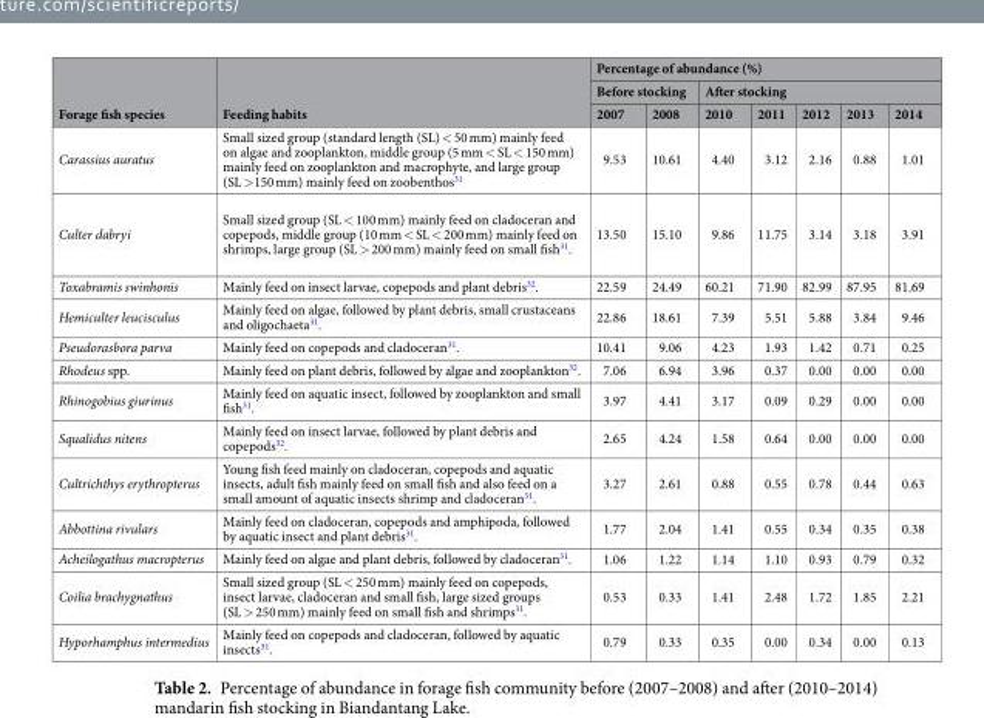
<table><thead><tr><td rowspan="3">Forage fish species</td><td rowspan="3">Feeding habits</td><td colspan="7">Percentage of abundance (%)</td></tr><tr><td colspan="2">Before stocking</td><td colspan="5">After stocking</td></tr><tr><td>2007</td><td>2008</td><td>2010</td><td>2011</td><td>2012</td><td>2013</td><td>2014</td></tr></thead><tbody><tr><td>Carassius auratus</td><td>Small sized group (standard length (SL) &lt; 50 mm) mainly feed on algae and zooplankton, middle group (5 mm &lt; SL &lt; 150 mm) mainly feed on zooplankton and macrophyte, and large group (SL &gt;150 mm) mainly feed on zoobenthos<sup>31</sup></td><td>9.53</td><td>10.61</td><td>4.40</td><td>3.12</td><td>2.16</td><td>0.88</td><td>1.01</td></tr><tr><td>Culter dabryi</td><td>Small sized group (SL &lt; 100 mm) mainly feed on cladoceran and copepods, middle group (10 mm &lt; SL &lt; 200 mm) mainly feed on shrimps, large group (SL &gt; 200 mm) mainly feed on small fish<sup>31</sup>.</td><td>13.50</td><td>15.10</td><td>9.86</td><td>11.75</td><td>3.14</td><td>3.18</td><td>3.91</td></tr><tr><td>Toxabramis swinhonis</td><td>Mainly feed on insect larvae, copepods and plant debris<sup>32</sup>.</td><td>22.59</td><td>24.49</td><td>60.21</td><td>71.90</td><td>82.99</td><td>87.95</td><td>81.69</td></tr><tr><td>Hemiculter leucisculus</td><td>Mainly feed on algae, followed by plant debris, small crustaceans and oligochaeta<sup>31</sup>.</td><td>22.86</td><td>18.61</td><td>7.39</td><td>5.51</td><td>5.88</td><td>3.84</td><td>9.46</td></tr><tr><td>Pseudorasbora parva</td><td>Mainly feed on copepods and cladoceran<sup>31</sup>.</td><td>10.41</td><td>9.06</td><td>4.23</td><td>1.93</td><td>1.42</td><td>0.71</td><td>0.25</td></tr><tr><td>Rhodeus spp.</td><td>Mainly feed on plant debris, followed by algae and zooplankton<sup>32</sup>.</td><td>7.06</td><td>6.94</td><td>3.96</td><td>0.37</td><td>0.00</td><td>0.00</td><td>0.00</td></tr><tr><td>Rhinogobius giurinus</td><td>Mainly feed on aquatic insect, followed by zooplankton and small fish<sup>31</sup>.</td><td>3.97</td><td>4.41</td><td>3.17</td><td>0.09</td><td>0.29</td><td>0.00</td><td>0.00</td></tr><tr><td>Squalidus nitens</td><td>Mainly feed on insect larvae, followed by plant debris and copepods<sup>32</sup>.</td><td>2.65</td><td>4.24</td><td>1.58</td><td>0.64</td><td>0.00</td><td>0.00</td><td>0.00</td></tr><tr><td>Cultrichthys erythropterus</td><td>Young fish feed mainly on cladoceran, copepods and aquatic insects, adult fish mainly feed on small fish and also feed on a small amount of aquatic insects shrimp and cladoceran<sup>31</sup>.</td><td>3.27</td><td>2.61</td><td>0.88</td><td>0.55</td><td>0.78</td><td>0.44</td><td>0.63</td></tr><tr><td>Abbottina rivulars</td><td>Mainly feed on cladoceran, copepods and amphipoda, followed by aquatic insect and plant debris<sup>31</sup>.</td><td>1.77</td><td>2.04</td><td>1.41</td><td>0.55</td><td>0.34</td><td>0.35</td><td>0.38</td></tr><tr><td>Acheilogathus macropterus</td><td>Mainly feed on algae and plant debris, followed by cladoceran<sup>31</sup>.</td><td>1.06</td><td>1.22</td><td>1.14</td><td>1.10</td><td>0.93</td><td>0.79</td><td>0.32</td></tr><tr><td>Coilia brachygnathus</td><td>Small sized group (SL &lt; 250 mm) mainly feed on copepods, insect larvae, cladoceran and small fish, large sized groups (SL &gt; 250 mm) mainly feed on small fish and shrimps<sup>31</sup>.</td><td>0.53</td><td>0.33</td><td>1.41</td><td>2.48</td><td>1.72</td><td>1.85</td><td>2.21</td></tr><tr><td>Hyporhamphus intermedius</td><td>Mainly feed on copepods and cladoceran, followed by aquatic insects<sup>31</sup>.</td><td>0.79</td><td>0.33</td><td>0.35</td><td>0.00</td><td>0.34</td><td>0.00</td><td>0.13</td></tr></tbody></table>